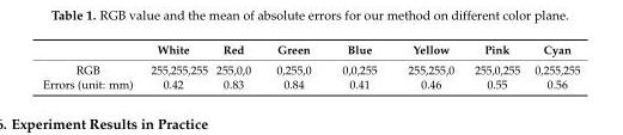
<table><thead><tr><td></td><td>White</td><td>Red</td><td>Green</td><td>Blue</td><td>Yellow</td><td>Pink</td><td>Cyan</td></tr></thead><tbody><tr><td>RGB</td><td>255,255,255</td><td>255,0,0</td><td>0,255,0</td><td>0,0,255</td><td>255,255,0</td><td>255,0,255</td><td>0,255,255</td></tr><tr><td>Errors (unit: mm)</td><td>0.42</td><td>0.83</td><td>0.84</td><td>0.41</td><td>0.46</td><td>0.55</td><td>0.56</td></tr></tbody></table>